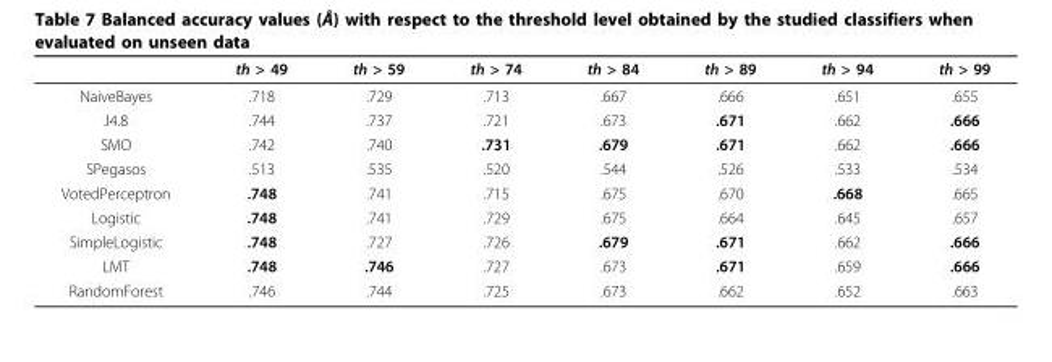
<table><thead><tr><td></td><td>th &gt; 49</td><td>th &gt; 59</td><td>th &gt; 74</td><td>th &gt; 84</td><td>th &gt; 89</td><td>th &gt; 94</td><td>th &gt; 99</td></tr></thead><tbody><tr><td>NaiveBayes</td><td>.718</td><td>.729</td><td>.713</td><td>.667</td><td>.666</td><td>.651</td><td>.655</td></tr><tr><td>J4.8</td><td>.744</td><td>.737</td><td>.721</td><td>.673</td><td>.671</td><td>.662</td><td>.666</td></tr><tr><td>SMO</td><td>.742</td><td>.740</td><td>.731</td><td>.679</td><td>.671</td><td>.662</td><td>.666</td></tr><tr><td>SPegasos</td><td>.513</td><td>.535</td><td>.520</td><td>.544</td><td>.526</td><td>.533</td><td>.534</td></tr><tr><td>VotedPerceptron</td><td>.748</td><td>.741</td><td>.715</td><td>.675</td><td>.670</td><td>.668</td><td>.665</td></tr><tr><td>Logistic</td><td>.748</td><td>.741</td><td>.729</td><td>.675</td><td>.664</td><td>.645</td><td>.657</td></tr><tr><td>SimpleLogistic</td><td>.748</td><td>.727</td><td>.726</td><td>.679</td><td>.671</td><td>.662</td><td>.666</td></tr><tr><td>LMT</td><td>.748</td><td>.746</td><td>.727</td><td>.673</td><td>.671</td><td>.659</td><td>.666</td></tr><tr><td>RandomForest</td><td>.746</td><td>.744</td><td>.725</td><td>.673</td><td>.662</td><td>.652</td><td>.663</td></tr></tbody></table>